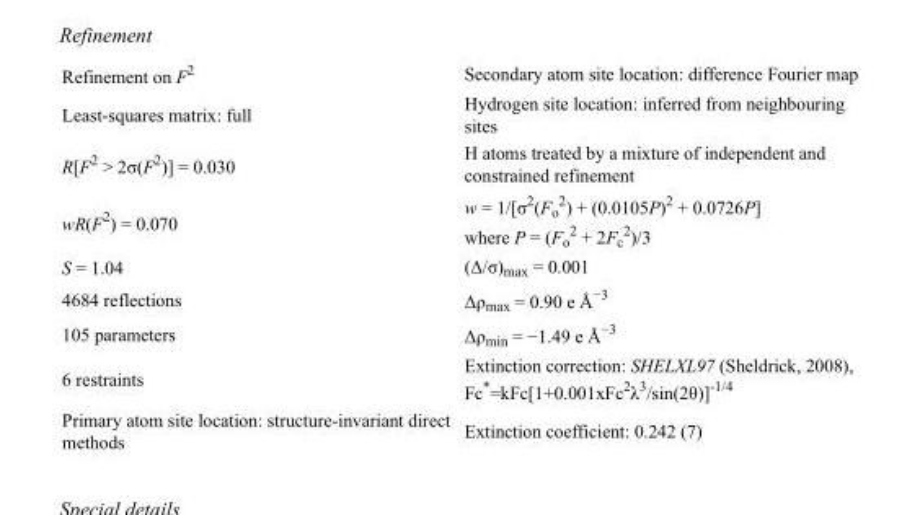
<table><tbody><tr><td>Refinement on F<sup>2</sup></td><td>Secondary atom site location: difference Fourier map</td></tr><tr><td>Least-squares matrix: full</td><td>Hydrogen site location: inferred from neighbouring sites</td></tr><tr><td>R[F<sup>2</sup> &gt; 2σ(F<sup>2</sup>)] = 0.030</td><td>H atoms treated by a mixture of independent and constrained refinement</td></tr><tr><td>wR(F<sup>2</sup>) = 0.070</td><td>w = 1/[σ<sup>2</sup>(F<sub>o</sub> <sup>2</sup>) + (0.0105P)<sup>2</sup> + 0.0726P] where P = (F<sub>o</sub> <sup>2</sup> + 2F<sub>c</sub> <sup>2</sup>)/3</td></tr><tr><td>S = 1.04</td><td>(Δ/σ)<sub>max</sub> = 0.001</td></tr><tr><td>4684 reflections</td><td>Δρ<sub>max</sub> = 0.90 e Å<sup>−3</sup></td></tr><tr><td>105 parameters</td><td>Δρ<sub>min</sub> = −1.49 e Å<sup>−3</sup></td></tr><tr><td>6 restraints</td><td>Extinction correction: SHELXL97 (Sheldrick, 2008), Fc*=kFc[1+0.001xFc<sup>2</sup>λ<sup>3</sup>/sin(2θ)]<sup>-1/4</sup></td></tr><tr><td>Primary atom site location: structure-invariant direct methods</td><td>Extinction coefficient: 0.242 (7)</td></tr></tbody></table>